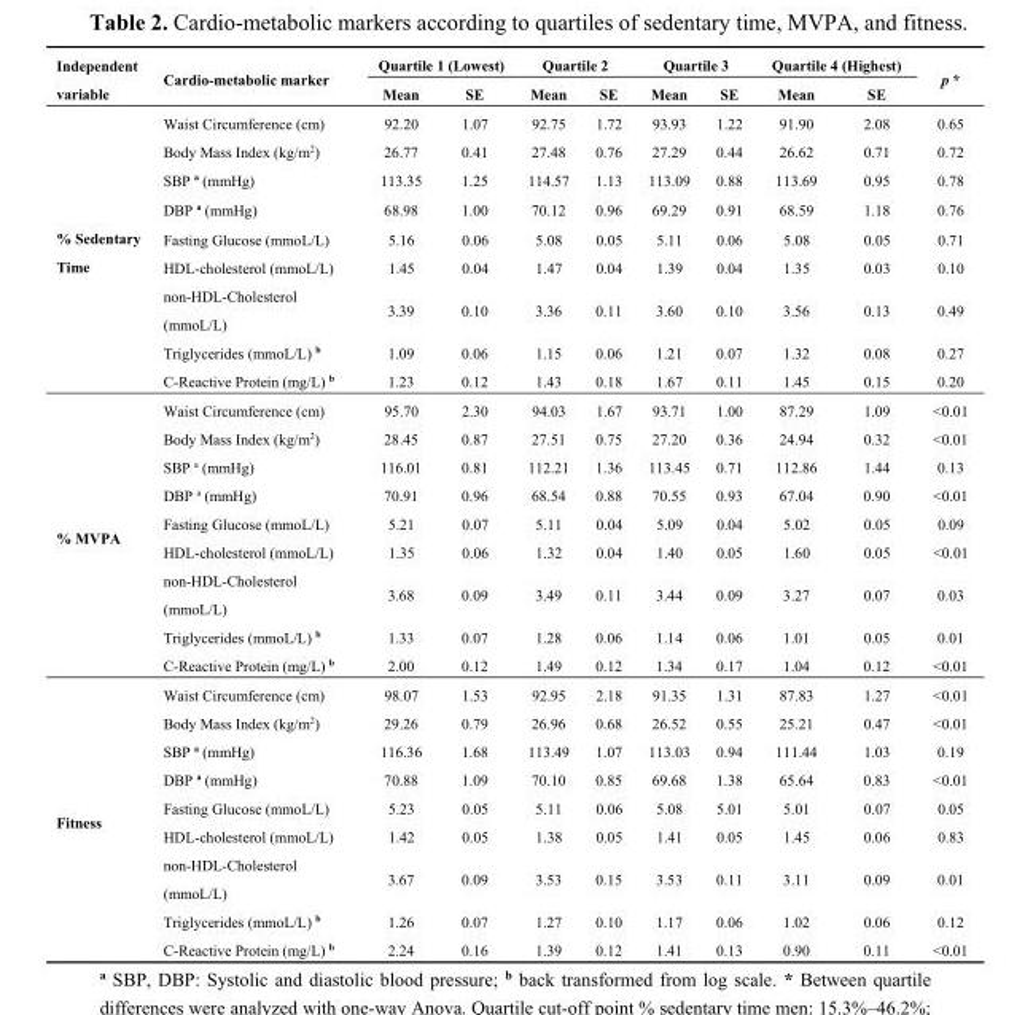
<table><thead><tr><td rowspan="2">Independent variable</td><td rowspan="2">Cardio-metabolic marker</td><td colspan="2">Quartile 1 (Lowest)</td><td colspan="2">Quartile 2</td><td colspan="2">Quartile 3</td><td colspan="2">Quartile 4 (Highest)</td><td rowspan="2">p *</td></tr><tr><td>Mean</td><td>SE</td><td>Mean</td><td>SE</td><td>Mean</td><td>SE</td><td>Mean</td><td>SE</td></tr></thead><tbody><tr><td rowspan="9">% Sedentary Time</td><td>Waist Circumference (cm)</td><td>92.20</td><td>1.07</td><td>92.75</td><td>1.72</td><td>93.93</td><td>1.22</td><td>91.90</td><td>2.08</td><td>0.65</td></tr><tr><td>Body Mass Index (kg/m<sup>2</sup>)</td><td>26.77</td><td>0.41</td><td>27.48</td><td>0.76</td><td>27.29</td><td>0.44</td><td>26.62</td><td>0.71</td><td>0.72</td></tr><tr><td>SBP <sup>a</sup> (mmHg)</td><td>113.35</td><td>1.25</td><td>114.57</td><td>1.13</td><td>113.09</td><td>0.88</td><td>113.69</td><td>0.95</td><td>0.78</td></tr><tr><td>DBP <sup>a</sup> (mmHg)</td><td>68.98</td><td>1.00</td><td>70.12</td><td>0.96</td><td>69.29</td><td>0.91</td><td>68.59</td><td>1.18</td><td>0.76</td></tr><tr><td>Fasting Glucose (mmoL/L)</td><td>5.16</td><td>0.06</td><td>5.08</td><td>0.05</td><td>5.11</td><td>0.06</td><td>5.08</td><td>0.05</td><td>0.71</td></tr><tr><td>HDL-cholesterol (mmoL/L)</td><td>1.45</td><td>0.04</td><td>1.47</td><td>0.04</td><td>1.39</td><td>0.04</td><td>1.35</td><td>0.03</td><td>0.10</td></tr><tr><td>non-HDL-Cholesterol (mmoL/L)</td><td>3.39</td><td>0.10</td><td>3.36</td><td>0.11</td><td>3.60</td><td>0.10</td><td>3.56</td><td>0.13</td><td>0.49</td></tr><tr><td>Triglycerides (mmoL/L) <sup>b</sup></td><td>1.09</td><td>0.06</td><td>1.15</td><td>0.06</td><td>1.21</td><td>0.07</td><td>1.32</td><td>0.08</td><td>0.27</td></tr><tr><td>C-Reactive Protein (mg/L) <sup>b</sup></td><td>1.23</td><td>0.12</td><td>1.43</td><td>0.18</td><td>1.67</td><td>0.11</td><td>1.45</td><td>0.15</td><td>0.20</td></tr><tr><td rowspan="9">% MVPA</td><td>Waist Circumference (cm)</td><td>95.70</td><td>2.30</td><td>94.03</td><td>1.67</td><td>93.71</td><td>1.00</td><td>87.29</td><td>1.09</td><td>&lt;0.01</td></tr><tr><td>Body Mass Index (kg/m<sup>2</sup>)</td><td>28.45</td><td>0.87</td><td>27.51</td><td>0.75</td><td>27.20</td><td>0.36</td><td>24.94</td><td>0.32</td><td>&lt;0.01</td></tr><tr><td>SBP <sup>a</sup> (mmHg)</td><td>116.01</td><td>0.81</td><td>112.21</td><td>1.36</td><td>113.45</td><td>0.71</td><td>112.86</td><td>1.44</td><td>0.13</td></tr><tr><td>DBP <sup>a</sup> (mmHg)</td><td>70.91</td><td>0.96</td><td>68.54</td><td>0.88</td><td>70.55</td><td>0.93</td><td>67.04</td><td>0.90</td><td>&lt;0.01</td></tr><tr><td>Fasting Glucose (mmoL/L)</td><td>5.21</td><td>0.07</td><td>5.11</td><td>0.04</td><td>5.09</td><td>0.04</td><td>5.02</td><td>0.05</td><td>0.09</td></tr><tr><td>HDL-cholesterol (mmoL/L)</td><td>1.35</td><td>0.06</td><td>1.32</td><td>0.04</td><td>1.40</td><td>0.05</td><td>1.60</td><td>0.05</td><td>&lt;0.01</td></tr><tr><td>non-HDL-Cholesterol (mmoL/L)</td><td>3.68</td><td>0.09</td><td>3.49</td><td>0.11</td><td>3.44</td><td>0.09</td><td>3.27</td><td>0.07</td><td>0.03</td></tr><tr><td>Triglycerides (mmoL/L) <sup>b</sup></td><td>1.33</td><td>0.07</td><td>1.28</td><td>0.06</td><td>1.14</td><td>0.06</td><td>1.01</td><td>0.05</td><td>0.01</td></tr><tr><td>C-Reactive Protein (mg/L) <sup>b</sup></td><td>2.00</td><td>0.12</td><td>1.49</td><td>0.12</td><td>1.34</td><td>0.17</td><td>1.04</td><td>0.12</td><td>&lt;0.01</td></tr><tr><td rowspan="9">Fitness</td><td>Waist Circumference (cm)</td><td>98.07</td><td>1.53</td><td>92.95</td><td>2.18</td><td>91.35</td><td>1.31</td><td>87.83</td><td>1.27</td><td>&lt;0.01</td></tr><tr><td>Body Mass Index (kg/m<sup>2</sup>)</td><td>29.26</td><td>0.79</td><td>26.96</td><td>0.68</td><td>26.52</td><td>0.55</td><td>25.21</td><td>0.47</td><td>&lt;0.01</td></tr><tr><td>SBP <sup>a</sup> (mmHg)</td><td>116.36</td><td>1.68</td><td>113.49</td><td>1.07</td><td>113.03</td><td>0.94</td><td>111.44</td><td>1.03</td><td>0.19</td></tr><tr><td>DBP <sup>a</sup> (mmHg)</td><td>70.88</td><td>1.09</td><td>70.10</td><td>0.85</td><td>69.68</td><td>1.38</td><td>65.64</td><td>0.83</td><td>&lt;0.01</td></tr><tr><td>Fasting Glucose (mmoL/L)</td><td>5.23</td><td>0.05</td><td>5.11</td><td>0.06</td><td>5.08</td><td>5.01</td><td>5.01</td><td>0.07</td><td>0.05</td></tr><tr><td>HDL-cholesterol (mmoL/L)</td><td>1.42</td><td>0.05</td><td>1.38</td><td>0.05</td><td>1.41</td><td>0.05</td><td>1.45</td><td>0.06</td><td>0.83</td></tr><tr><td>non-HDL-Cholesterol (mmoL/L)</td><td>3.67</td><td>0.09</td><td>3.53</td><td>0.15</td><td>3.53</td><td>0.11</td><td>3.11</td><td>0.09</td><td>0.01</td></tr><tr><td>Triglycerides (mmoL/L) <sup>b</sup></td><td>1.26</td><td>0.07</td><td>1.27</td><td>0.10</td><td>1.17</td><td>0.06</td><td>1.02</td><td>0.06</td><td>0.12</td></tr><tr><td>C-Reactive Protein (mg/L) <sup>b</sup></td><td>2.24</td><td>0.16</td><td>1.39</td><td>0.12</td><td>1.41</td><td>0.13</td><td>0.90</td><td>0.11</td><td>&lt;0.01</td></tr></tbody></table>